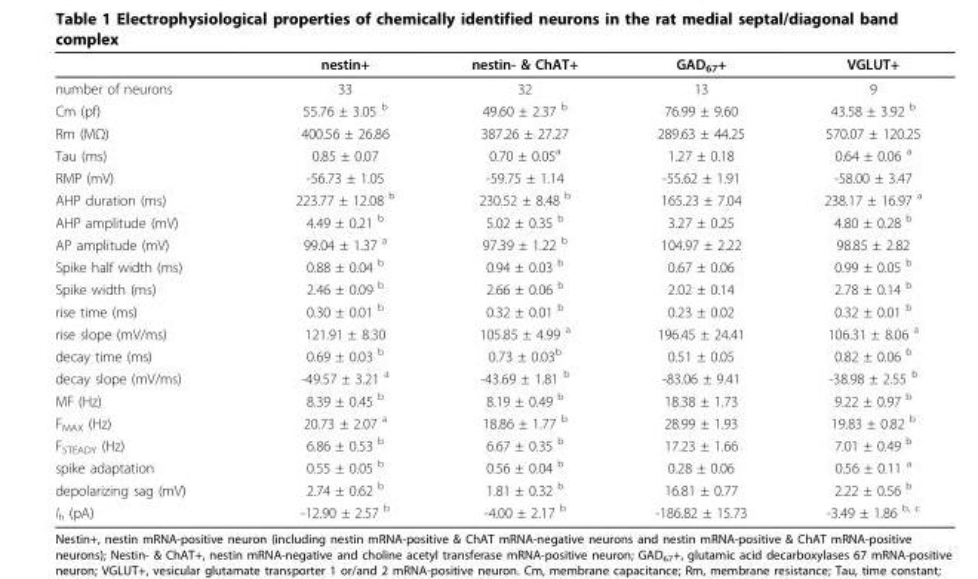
<table><thead><tr><td></td><td>nestin+</td><td>nestin- &amp; ChAT+</td><td>GAD<sub>67</sub>+</td><td>VGLUT+</td></tr></thead><tbody><tr><td>number of neurons</td><td>33</td><td>32</td><td>13</td><td>9</td></tr><tr><td>Cm (pf)</td><td>55.76 ± 3.05 <sup>b</sup></td><td>49.60 ± 2.37 <sup>b</sup></td><td>76.99 ± 9.60</td><td>43.58 ± 3.92 <sup>b</sup></td></tr><tr><td>Rm (MΩ)</td><td>400.56 ± 26.86</td><td>387.26 ± 27.27</td><td>289.63 ± 44.25</td><td>570.07 ± 120.25</td></tr><tr><td>Tau (ms)</td><td>0.85 ± 0.07</td><td>0.70 ± 0.05<sup>a</sup></td><td>1.27 ± 0.18</td><td>0.64 ± 0.06 <sup>a</sup></td></tr><tr><td>RMP (mV)</td><td>-56.73 ± 1.05</td><td>-59.75 ± 1.14</td><td>-55.62 ± 1.91</td><td>-58.00 ± 3.47</td></tr><tr><td>AHP duration (ms)</td><td>223.77 ± 12.08 <sup>b</sup></td><td>230.52 ± 8.48 <sup>b</sup></td><td>165.23 ± 7.04</td><td>238.17 ± 16.97 <sup>a</sup></td></tr><tr><td>AHP amplitude (mV)</td><td>4.49 ± 0.21 <sup>b</sup></td><td>5.02 ± 0.35 <sup>b</sup></td><td>3.27 ± 0.25</td><td>4.80 ± 0.28 <sup>b</sup></td></tr><tr><td>AP amplitude (mV)</td><td>99.04 ± 1.37 <sup>a</sup></td><td>97.39 ± 1.22 <sup>b</sup></td><td>104.97 ± 2.22</td><td>98.85 ± 2.82</td></tr><tr><td>Spike half width (ms)</td><td>0.88 ± 0.04 <sup>b</sup></td><td>0.94 ± 0.03 <sup>b</sup></td><td>0.67 ± 0.06</td><td>0.99 ± 0.05 <sup>b</sup></td></tr><tr><td>Spike width (ms)</td><td>2.46 ± 0.09 <sup>b</sup></td><td>2.66 ± 0.06 <sup>b</sup></td><td>2.02 ± 0.14</td><td>2.78 ± 0.14 <sup>b</sup></td></tr><tr><td>rise time (ms)</td><td>0.30 ± 0.01 <sup>b</sup></td><td>0.32 ± 0.01 <sup>b</sup></td><td>0.23 ± 0.02</td><td>0.32 ± 0.01 <sup>b</sup></td></tr><tr><td>rise slope (mV/ms)</td><td>121.91 ± 8.30</td><td>105.85 ± 4.99 <sup>a</sup></td><td>196.45 ± 24.41</td><td>106.31 ± 8.06 <sup>a</sup></td></tr><tr><td>decay time (ms)</td><td>0.69 ± 0.03 <sup>b</sup></td><td>0.73 ± 0.03<sup>b</sup></td><td>0.51 ± 0.05</td><td>0.82 ± 0.06 <sup>b</sup></td></tr><tr><td>decay slope (mV/ms)</td><td>-49.57 ± 3.21 <sup>a</sup></td><td>-43.69 ± 1.81 <sup>b</sup></td><td>-83.06 ± 9.41</td><td>-38.98 ± 2.55 <sup>b</sup></td></tr><tr><td>MF (Hz)</td><td>8.39 ± 0.45 <sup>b</sup></td><td>8.19 ± 0.49 <sup>b</sup></td><td>18.38 ± 1.73</td><td>9.22 ± 0.97 <sup>b</sup></td></tr><tr><td>F<sub>MAX</sub> (Hz)</td><td>20.73 ± 2.07 <sup>a</sup></td><td>18.86 ± 1.77 <sup>b</sup></td><td>28.99 ± 1.93</td><td>19.83 ± 0.82 <sup>b</sup></td></tr><tr><td>F<sub>STEADY</sub> (Hz)</td><td>6.86 ± 0.53 <sup>b</sup></td><td>6.67 ± 0.35 <sup>b</sup></td><td>17.23 ± 1.66</td><td>7.01 ± 0.49 <sup>b</sup></td></tr><tr><td>spike adaptation</td><td>0.55 ± 0.05 <sup>b</sup></td><td>0.56 ± 0.04 <sup>b</sup></td><td>0.28 ± 0.06</td><td>0.56 ± 0.11 <sup>a</sup></td></tr><tr><td>depolarizing sag (mV)</td><td>2.74 ± 0.62 <sup>b</sup></td><td>1.81 ± 0.32 <sup>b</sup></td><td>16.81 ± 0.77</td><td>2.22 ± 0.56 <sup>b</sup></td></tr><tr><td>I<sub>h</sub> (pA)</td><td>-12.90 ± 2.57 <sup>b</sup></td><td>-4.00 ± 2.17 <sup>b</sup></td><td>-186.82 ± 15.73</td><td>-3.49 ± 1.86 <sup>b, c</sup></td></tr></tbody></table>